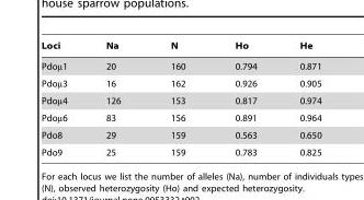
<table><thead><tr><td>Loci</td><td>Na</td><td>N</td><td>Ho</td><td>He</td></tr></thead><tbody><tr><td>Pdoµ1</td><td>20</td><td>160</td><td>0.794</td><td>0.871</td></tr><tr><td>Pdoµ3</td><td>16</td><td>162</td><td>0.926</td><td>0.905</td></tr><tr><td>Pdoµ4</td><td>126</td><td>153</td><td>0.817</td><td>0.974</td></tr><tr><td>Pdoµ6</td><td>83</td><td>156</td><td>0.891</td><td>0.964</td></tr><tr><td>Pdo8</td><td>29</td><td>159</td><td>0.563</td><td>0.650</td></tr><tr><td>Pdo9</td><td>25</td><td>159</td><td>0.783</td><td>0.825</td></tr></tbody></table>